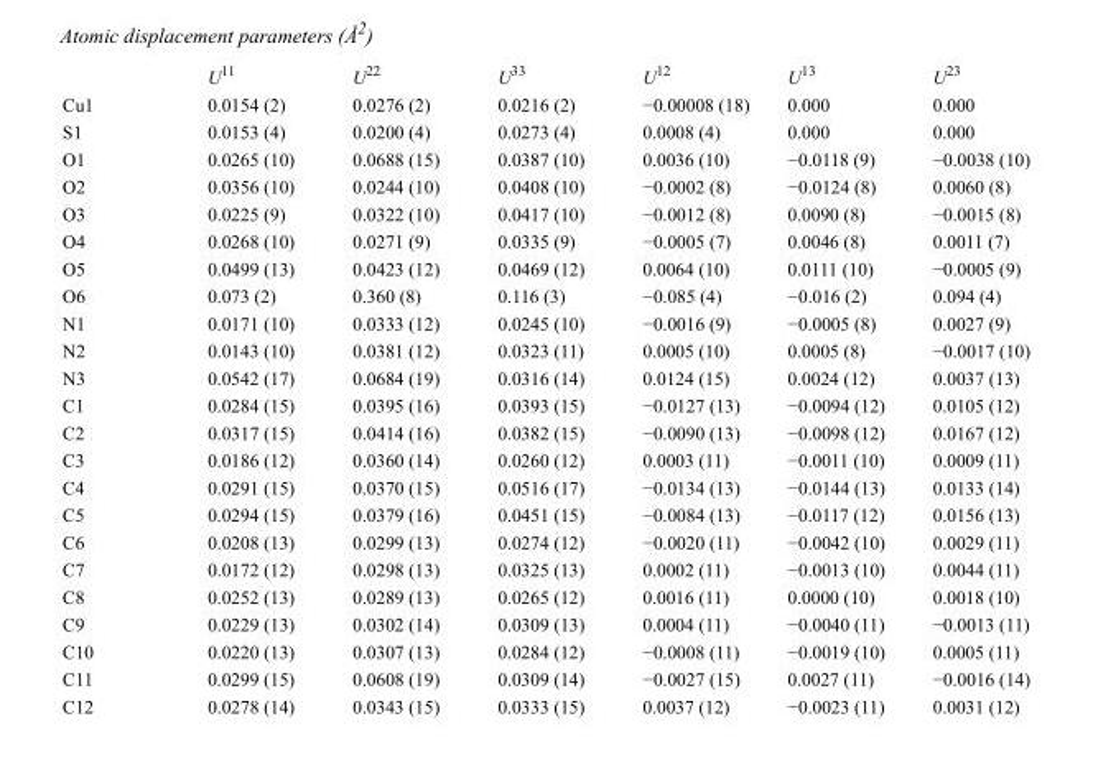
<table><thead><tr><td></td><td>U<sup>11</sup></td><td>U<sup>22</sup></td><td>U<sup>33</sup></td><td>U<sup>12</sup></td><td>U<sup>13</sup></td><td>U<sup>23</sup></td></tr></thead><tbody><tr><td>Cu1</td><td>0.0154 (2)</td><td>0.0276 (2)</td><td>0.0216 (2)</td><td>−0.00008 (18)</td><td>0.000</td><td>0.000</td></tr><tr><td>S1</td><td>0.0153 (4)</td><td>0.0200 (4)</td><td>0.0273 (4)</td><td>0.0008 (4)</td><td>0.000</td><td>0.000</td></tr><tr><td>O1</td><td>0.0265 (10)</td><td>0.0688 (15)</td><td>0.0387 (10)</td><td>0.0036 (10)</td><td>−0.0118 (9)</td><td>−0.0038 (10)</td></tr><tr><td>O2</td><td>0.0356 (10)</td><td>0.0244 (10)</td><td>0.0408 (10)</td><td>−0.0002 (8)</td><td>−0.0124 (8)</td><td>0.0060 (8)</td></tr><tr><td>O3</td><td>0.0225 (9)</td><td>0.0322 (10)</td><td>0.0417 (10)</td><td>−0.0012 (8)</td><td>0.0090 (8)</td><td>−0.0015 (8)</td></tr><tr><td>O4</td><td>0.0268 (10)</td><td>0.0271 (9)</td><td>0.0335 (9)</td><td>−0.0005 (7)</td><td>0.0046 (8)</td><td>0.0011 (7)</td></tr><tr><td>O5</td><td>0.0499 (13)</td><td>0.0423 (12)</td><td>0.0469 (12)</td><td>0.0064 (10)</td><td>0.0111 (10)</td><td>−0.0005 (9)</td></tr><tr><td>O6</td><td>0.073 (2)</td><td>0.360 (8)</td><td>0.116 (3)</td><td>−0.085 (4)</td><td>−0.016 (2)</td><td>0.094 (4)</td></tr><tr><td>N1</td><td>0.0171 (10)</td><td>0.0333 (12)</td><td>0.0245 (10)</td><td>−0.0016 (9)</td><td>−0.0005 (8)</td><td>0.0027 (9)</td></tr><tr><td>N2</td><td>0.0143 (10)</td><td>0.0381 (12)</td><td>0.0323 (11)</td><td>0.0005 (10)</td><td>0.0005 (8)</td><td>−0.0017 (10)</td></tr><tr><td>N3</td><td>0.0542 (17)</td><td>0.0684 (19)</td><td>0.0316 (14)</td><td>0.0124 (15)</td><td>0.0024 (12)</td><td>0.0037 (13)</td></tr><tr><td>C1</td><td>0.0284 (15)</td><td>0.0395 (16)</td><td>0.0393 (15)</td><td>−0.0127 (13)</td><td>−0.0094 (12)</td><td>0.0105 (12)</td></tr><tr><td>C2</td><td>0.0317 (15)</td><td>0.0414 (16)</td><td>0.0382 (15)</td><td>−0.0090 (13)</td><td>−0.0098 (12)</td><td>0.0167 (12)</td></tr><tr><td>C3</td><td>0.0186 (12)</td><td>0.0360 (14)</td><td>0.0260 (12)</td><td>0.0003 (11)</td><td>−0.0011 (10)</td><td>0.0009 (11)</td></tr><tr><td>C4</td><td>0.0291 (15)</td><td>0.0370 (15)</td><td>0.0516 (17)</td><td>−0.0134 (13)</td><td>−0.0144 (13)</td><td>0.0133 (14)</td></tr><tr><td>C5</td><td>0.0294 (15)</td><td>0.0379 (16)</td><td>0.0451 (15)</td><td>−0.0084 (13)</td><td>−0.0117 (12)</td><td>0.0156 (13)</td></tr><tr><td>C6</td><td>0.0208 (13)</td><td>0.0299 (13)</td><td>0.0274 (12)</td><td>−0.0020 (11)</td><td>−0.0042 (10)</td><td>0.0029 (11)</td></tr><tr><td>C7</td><td>0.0172 (12)</td><td>0.0298 (13)</td><td>0.0325 (13)</td><td>0.0002 (11)</td><td>−0.0013 (10)</td><td>0.0044 (11)</td></tr><tr><td>C8</td><td>0.0252 (13)</td><td>0.0289 (13)</td><td>0.0265 (12)</td><td>0.0016 (11)</td><td>0.0000 (10)</td><td>0.0018 (10)</td></tr><tr><td>C9</td><td>0.0229 (13)</td><td>0.0302 (14)</td><td>0.0309 (13)</td><td>0.0004 (11)</td><td>−0.0040 (11)</td><td>−0.0013 (11)</td></tr><tr><td>C10</td><td>0.0220 (13)</td><td>0.0307 (13)</td><td>0.0284 (12)</td><td>−0.0008 (11)</td><td>−0.0019 (10)</td><td>0.0005 (11)</td></tr><tr><td>C11</td><td>0.0299 (15)</td><td>0.0608 (19)</td><td>0.0309 (14)</td><td>−0.0027 (15)</td><td>0.0027 (11)</td><td>−0.0016 (14)</td></tr><tr><td>C12</td><td>0.0278 (14)</td><td>0.0343 (15)</td><td>0.0333 (15)</td><td>0.0037 (12)</td><td>−0.0023 (11)</td><td>0.0031 (12)</td></tr></tbody></table>